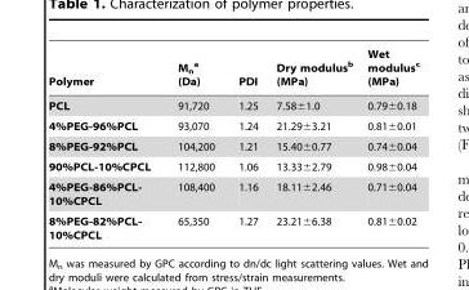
<table><thead><tr><td>Polymer</td><td>M<sub>n</sub> a (Da)</td><td>PDI</td><td>Dry modulus<sup>b</sup> (MPa)</td><td>Wet modulus<sup>c</sup> (MPa)</td></tr></thead><tbody><tr><td>PCL</td><td>91,720</td><td>1.25</td><td>7.58±1.0</td><td>0.79±0.18</td></tr><tr><td>4%PEG-96%PCL</td><td>93,070</td><td>1.24</td><td>21.29±3.21</td><td>0.81±0.01</td></tr><tr><td>8%PEG-92%PCL</td><td>104,200</td><td>1.21</td><td>15.40±0.77</td><td>0.74±0.04</td></tr><tr><td>90%PCL-10%CPCL</td><td>112,800</td><td>1.06</td><td>13.33±2.79</td><td>0.98±0.04</td></tr><tr><td>4%PEG-86%PCL- 10%CPCL</td><td>108,400</td><td>1.16</td><td>18.11±2.46</td><td>0.71±0.04</td></tr><tr><td>8%PEG-82%PCL- 10%CPCL</td><td>65,350</td><td>1.27</td><td>23.21±6.38</td><td>0.81±0.02</td></tr></tbody></table>